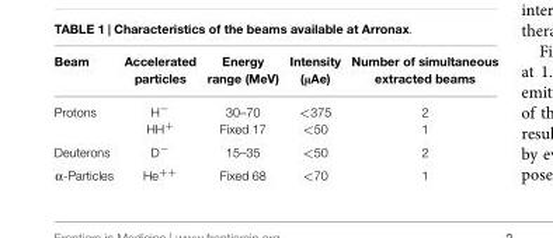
<table><thead><tr><td>Beam</td><td>Accelerated particles</td><td>Energy range (MeV)</td><td>Intensity (μAe)</td><td>Number of simultaneous extracted beams</td></tr></thead><tbody><tr><td rowspan="2">Protons</td><td>H<sup>−</sup></td><td>30–70</td><td>&lt;375</td><td>2</td></tr><tr><td>HH<sup>+</sup></td><td>Fixed 17</td><td>&lt;50</td><td>1</td></tr><tr><td>Deuterons</td><td>D<sup>−</sup></td><td>15–35</td><td>&lt;50</td><td>2</td></tr><tr><td>α-Particles</td><td>He<sup>++</sup></td><td>Fixed 68</td><td>&lt;70</td><td>1</td></tr></tbody></table>